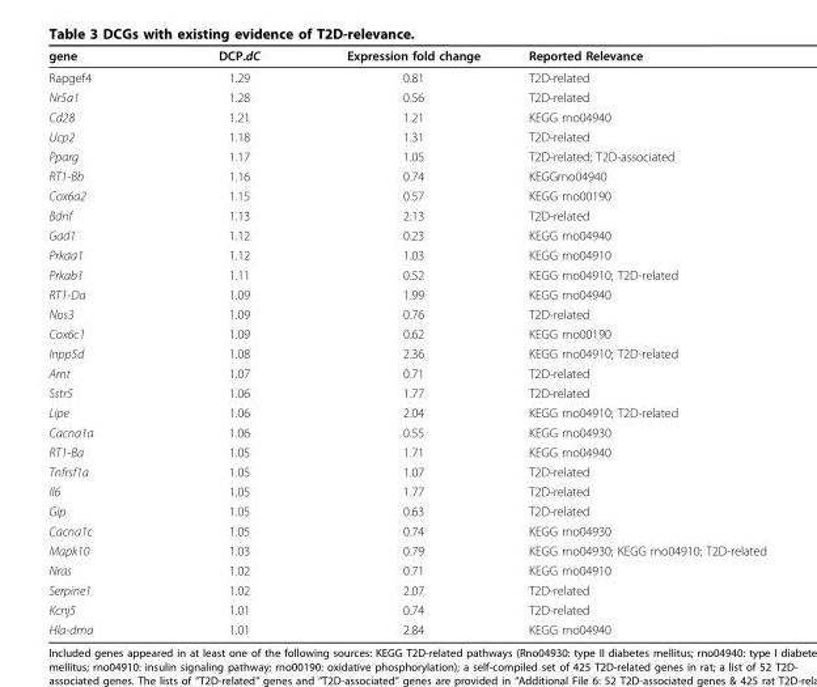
<table><thead><tr><td>gene</td><td>DCP.dC</td><td>Expression fold change</td><td>Reported Relevance</td></tr></thead><tbody><tr><td>Rapgef4</td><td>1.29</td><td>0.81</td><td>T2D-related</td></tr><tr><td>Nr5a1</td><td>1.28</td><td>0.56</td><td>T2D-related</td></tr><tr><td>Cd28</td><td>1.21</td><td>1.21</td><td>KEGG rno04940</td></tr><tr><td>Ucp2</td><td>1.18</td><td>1.31</td><td>T2D-related</td></tr><tr><td>Pparg</td><td>1.17</td><td>1.05</td><td>T2D-related; T2D-associated</td></tr><tr><td>RT1-Bb</td><td>1.16</td><td>0.74</td><td>KEGGrno04940</td></tr><tr><td>Cox6a2</td><td>1.15</td><td>0.57</td><td>KEGG rno00190</td></tr><tr><td>Bdnf</td><td>1.13</td><td>2.13</td><td>T2D-related</td></tr><tr><td>Gad1</td><td>1.12</td><td>0.23</td><td>KEGG rno04940</td></tr><tr><td>Prkaa1</td><td>1.12</td><td>1.03</td><td>KEGG rno04910</td></tr><tr><td>Prkab1</td><td>1.11</td><td>0.52</td><td>KEGG rno04910; T2D-related</td></tr><tr><td>RT1-Da</td><td>1.09</td><td>1.99</td><td>KEGG rno04940</td></tr><tr><td>Nos3</td><td>1.09</td><td>0.76</td><td>T2D-related</td></tr><tr><td>Cox6c1</td><td>1.09</td><td>0.62</td><td>KEGG rno00190</td></tr><tr><td>Inpp5d</td><td>1.08</td><td>2.36</td><td>KEGG rno04910; T2D-related</td></tr><tr><td>Arnt</td><td>1.07</td><td>0.71</td><td>T2D-related</td></tr><tr><td>Sstr5</td><td>1.06</td><td>1.77</td><td>T2D-related</td></tr><tr><td>Lipe</td><td>1.06</td><td>2.04</td><td>KEGG rno04910; T2D-related</td></tr><tr><td>Cacna1a</td><td>1.06</td><td>0.55</td><td>KEGG rno04930</td></tr><tr><td>RT1-Ba</td><td>1.05</td><td>1.71</td><td>KEGG rno04940</td></tr><tr><td>Tnfrsf1a</td><td>1.05</td><td>1.07</td><td>T2D-related</td></tr><tr><td>Il6</td><td>1.05</td><td>1.77</td><td>T2D-related</td></tr><tr><td>Gip</td><td>1.05</td><td>0.63</td><td>T2D-related</td></tr><tr><td>Cacna1c</td><td>1.05</td><td>0.74</td><td>KEGG rno04930</td></tr><tr><td>Mapk10</td><td>1.03</td><td>0.79</td><td>KEGG rno04930; KEGG rno04910; T2D-related</td></tr><tr><td>Nras</td><td>1.02</td><td>0.71</td><td>KEGG rno04910</td></tr><tr><td>Serpine1</td><td>1.02</td><td>2.07</td><td>T2D-related</td></tr><tr><td>Kcnj5</td><td>1.01</td><td>0.74</td><td>T2D-related</td></tr><tr><td>Hla-dma</td><td>1.01</td><td>2.84</td><td>KEGG rno04940</td></tr></tbody></table>